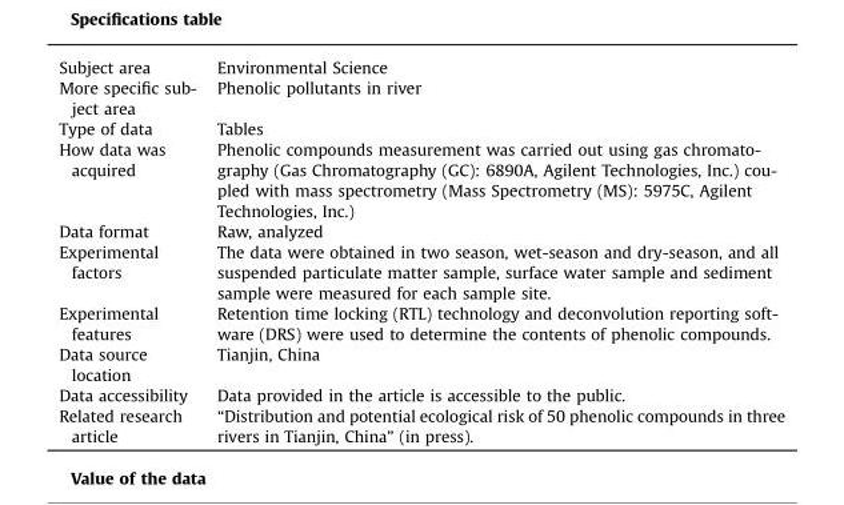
<table><tbody><tr><td>Subject area</td><td>Environmental Science</td></tr><tr><td>More specific sub- ject area</td><td>Phenolic pollutants in river</td></tr><tr><td>Type of data</td><td>Tables</td></tr><tr><td>How data was acquired</td><td>Phenolic compounds measurement was carried out using gas chromato- graphy (Gas Chromatography (GC): 6890A, Agilent Technologies, Inc.) cou- pled with mass spectrometry (Mass Spectrometry (MS): 5975C, Agilent Technologies, Inc.)</td></tr><tr><td>Data format</td><td>Raw, analyzed</td></tr><tr><td>Experimental factors</td><td>The data were obtained in two season, wet-season and dry-season, and all suspended particulate matter sample, surface water sample and sediment sample were measured for each sample site.</td></tr><tr><td>Experimental features</td><td>Retention time locking (RTL) technology and deconvolution reporting soft- ware (DRS) were used to determine the contents of phenolic compounds.</td></tr><tr><td>Data source location</td><td>Tianjin, China</td></tr><tr><td>Data accessibility</td><td>Data provided in the article is accessible to the public.</td></tr><tr><td>Related research article</td><td>“Distribution and potential ecological risk of 50 phenolic compounds in three rivers in Tianjin, China” (in press).</td></tr></tbody></table>